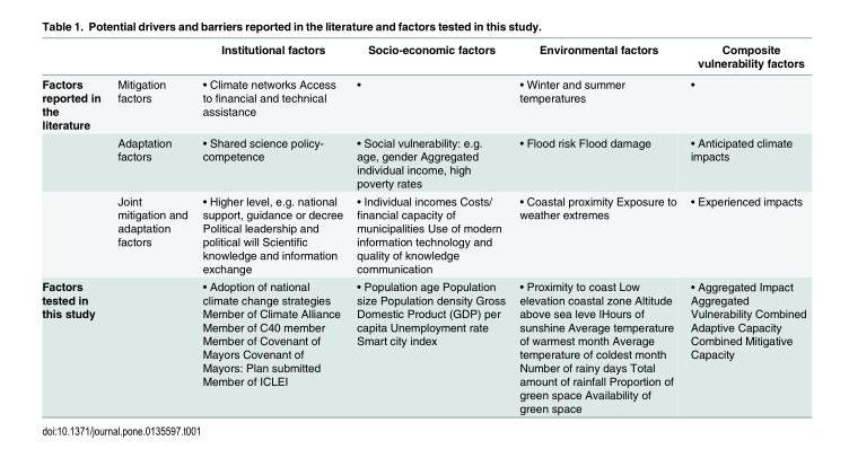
<table><thead><tr><td></td><td></td><td>Institutional factors</td><td>Socio-economic factors</td><td>Environmental factors</td><td>Composite vulnerability factors</td></tr></thead><tbody><tr><td rowspan="3">Factors reported in the literature</td><td>Mitigation factors</td><td>• Climate networks Access to financial and technical assistance</td><td>•</td><td>• Winter and summer temperatures</td><td>•</td></tr><tr><td>Adaptation factors</td><td>• Shared science policy- competence</td><td>• Social vulnerability: e.g. age, gender Aggregated individual income, high poverty rates</td><td>• Flood risk Flood damage</td><td>• Anticipated climate impacts</td></tr><tr><td>Joint mitigation and adaptation factors</td><td>• Higher level, e.g. national support, guidance or decree Political leadership and political will Scientific knowledge and information exchange</td><td>• Individual incomes Costs/ financial capacity of municipalities Use of modern information technology and quality of knowledge communication</td><td>• Coastal proximity Exposure to weather extremes</td><td>• Experienced impacts</td></tr><tr><td>Factors tested in this study</td><td></td><td>• Adoption of national climate change strategies Member of Climate Alliance Member of C40 member Member of Covenant of Mayors Covenant of Mayors: Plan submitted Member of ICLEI</td><td>• Population age Population size Population density Gross Domestic Product (GDP) per capita Unemployment rate Smart city index</td><td>• Proximity to coast Low elevation coastal zone Altitude above sea leve lHours of sunshine Average temperature of warmest month Average temperature of coldest month Number of rainy days Total amount of rainfall Proportion of green space Availability of green space</td><td>• Aggregated Impact Aggregated Vulnerability Combined Adaptive Capacity Combined Mitigative Capacity</td></tr></tbody></table>